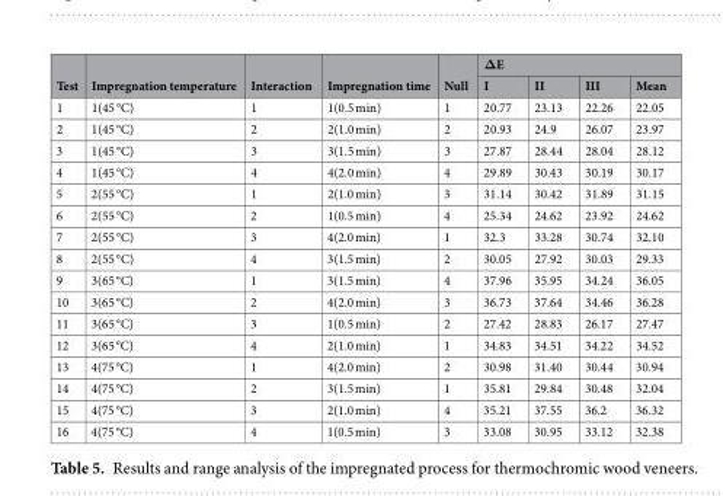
<table><thead><tr><td rowspan="2">Test</td><td rowspan="2">Impregnation temperature</td><td rowspan="2">Interaction</td><td rowspan="2">Impregnation time</td><td rowspan="2">Null</td><td colspan="4">ΔE</td></tr><tr><td>І</td><td>II</td><td>III</td><td>Mean</td></tr></thead><tbody><tr><td>1</td><td>1(45 °C)</td><td>1</td><td>1(0.5 min)</td><td>1</td><td>20.77</td><td>23.13</td><td>22.26</td><td>22.05</td></tr><tr><td>2</td><td>1(45 °C)</td><td>2</td><td>2(1.0 min)</td><td>2</td><td>20.93</td><td>24.9</td><td>26.07</td><td>23.97</td></tr><tr><td>3</td><td>1(45 °C)</td><td>3</td><td>3(1.5 min)</td><td>3</td><td>27.87</td><td>28.44</td><td>28.04</td><td>28.12</td></tr><tr><td>4</td><td>1(45 °C)</td><td>4</td><td>4(2.0 min)</td><td>4</td><td>29.89</td><td>30.43</td><td>30.19</td><td>30.17</td></tr><tr><td>5</td><td>2(55 °C)</td><td>1</td><td>2(1.0 min)</td><td>3</td><td>31.14</td><td>30.42</td><td>31.89</td><td>31.15</td></tr><tr><td>6</td><td>2(55 °C)</td><td>2</td><td>1(0.5 min)</td><td>4</td><td>25.34</td><td>24.62</td><td>23.92</td><td>24.62</td></tr><tr><td>7</td><td>2(55 °C)</td><td>3</td><td>4(2.0 min)</td><td>1</td><td>32.3</td><td>33.28</td><td>30.74</td><td>32.10</td></tr><tr><td>8</td><td>2(55 °C)</td><td>4</td><td>3(1.5 min)</td><td>2</td><td>30.05</td><td>27.92</td><td>30.03</td><td>29.33</td></tr><tr><td>9</td><td>3(65 °C)</td><td>1</td><td>3(1.5 min)</td><td>4</td><td>37.96</td><td>35.95</td><td>34.24</td><td>36.05</td></tr><tr><td>10</td><td>3(65 °C)</td><td>2</td><td>4(2.0 min)</td><td>3</td><td>36.73</td><td>37.64</td><td>34.46</td><td>36.28</td></tr><tr><td>11</td><td>3(65 °C)</td><td>3</td><td>1(0.5 min)</td><td>2</td><td>27.42</td><td>28.83</td><td>26.17</td><td>27.47</td></tr><tr><td>12</td><td>3(65 °C)</td><td>4</td><td>2(1.0 min)</td><td>1</td><td>34.83</td><td>34.51</td><td>34.22</td><td>34.52</td></tr><tr><td>13</td><td>4(75 °C)</td><td>1</td><td>4(2.0 min)</td><td>2</td><td>30.98</td><td>31.40</td><td>30.44</td><td>30.94</td></tr><tr><td>14</td><td>4(75 °C)</td><td>2</td><td>3(1.5 min)</td><td>1</td><td>35.81</td><td>29.84</td><td>30.48</td><td>32.04</td></tr><tr><td>15</td><td>4(75 °C)</td><td>3</td><td>2(1.0 min)</td><td>4</td><td>35.21</td><td>37.55</td><td>36.2</td><td>36.32</td></tr><tr><td>16</td><td>4(75 °C)</td><td>4</td><td>1(0.5 min)</td><td>3</td><td>33.08</td><td>30.95</td><td>33.12</td><td>32.38</td></tr></tbody></table>